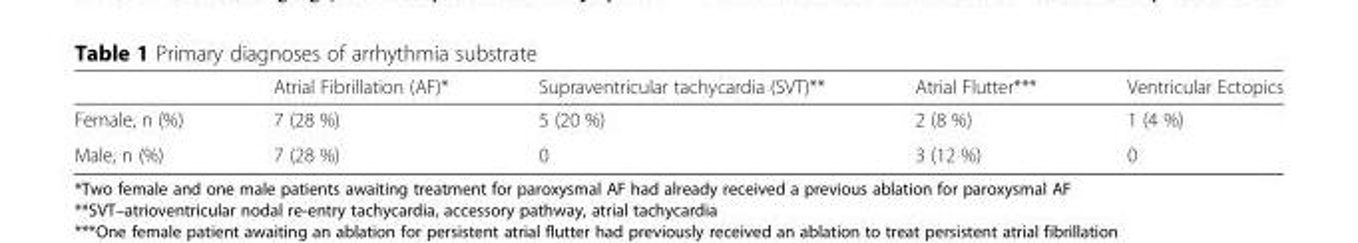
<table><thead><tr><td></td><td>Atrial Fibrillation (AF)*</td><td>Supraventricular tachycardia (SVT)**</td><td>Atrial Flutter***</td><td>Ventricular Ectopics</td></tr></thead><tbody><tr><td>Female, n (%)</td><td>7 (28 %)</td><td>5 (20 %)</td><td>2 (8 %)</td><td>1 (4 %)</td></tr><tr><td>Male, n (%)</td><td>7 (28 %)</td><td>0</td><td>3 (12 %)</td><td>0</td></tr></tbody></table>